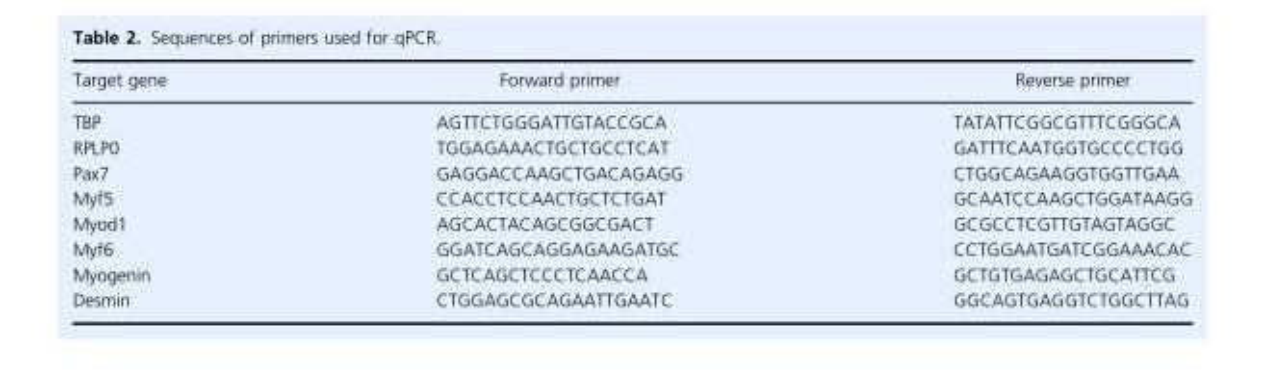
<table><thead><tr><td>Target gene</td><td>Forward primer</td><td>Reverse primer</td></tr></thead><tbody><tr><td>TBP</td><td>AGTTCTGGGATTGTACCGCA</td><td>TATATTCGGCGTTTCGGGCA</td></tr><tr><td>RPLP0</td><td>TGGAGAAACTGCTGCCTCAT</td><td>GATTTCAATGGTGCCCCTGG</td></tr><tr><td>Pax7</td><td>GAGGACCAAGCTGACAGAGG</td><td>CTGGCAGAAGGTGGTTGAA</td></tr><tr><td>Myf5</td><td>CCACCTCCAACTGCTCTGAT</td><td>GCAATCCAAGCTGGATAAGG</td></tr><tr><td>Myod1</td><td>AGCACTACAGCGGCGACT</td><td>GCGCCTCGTTGTAGTAGGC</td></tr><tr><td>Myf6</td><td>GGATCAGCAGGAGAAGATGC</td><td>CCTGGAATGATCGGAAACAC</td></tr><tr><td>Myogenin</td><td>GCTCAGCTCCCTCAACCA</td><td>GCTGTGAGAGCTGCATTCG</td></tr><tr><td>Desmin</td><td>CTGGAGCGCAGAATTGAATC</td><td>GGCAGTGAGGTCTGGCTTAG</td></tr></tbody></table>